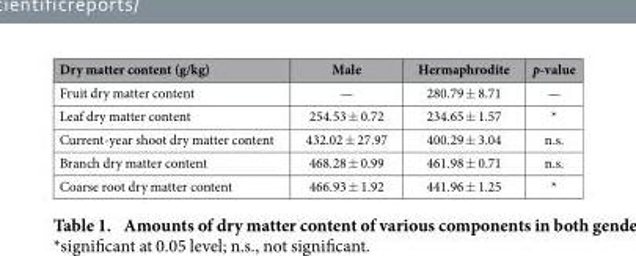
<table><thead><tr><td>Dry matter content (g/kg)</td><td>Male</td><td>Hermaphrodite</td><td>p-value</td></tr></thead><tbody><tr><td>Fruit dry matter content</td><td>—</td><td>280.79 ± 8.71</td><td>—</td></tr><tr><td>Leaf dry matter content</td><td>254.53 ± 0.72</td><td>234.65 ± 1.57</td><td>*</td></tr><tr><td>Current-year shoot dry matter content</td><td>432.02 ± 27.97</td><td>400.29 ± 3.04</td><td>n.s.</td></tr><tr><td>Branch dry matter content</td><td>468.28 ± 0.99</td><td>461.98 ± 0.71</td><td>n.s.</td></tr><tr><td>Coarse root dry matter content</td><td>466.93 ± 1.92</td><td>441.96 ± 1.25</td><td>*</td></tr></tbody></table>